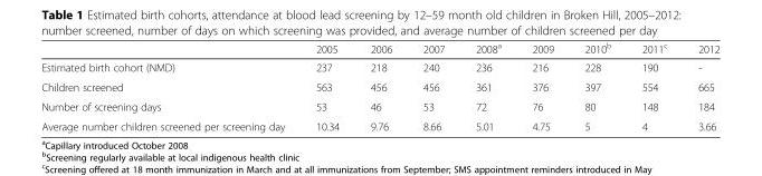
<table><thead><tr><td></td><td>2005</td><td>2006</td><td>2007</td><td>2008<sup>a</sup></td><td>2009</td><td>2010<sup>b</sup></td><td>2011<sup>c</sup></td><td>2012</td></tr></thead><tbody><tr><td>Estimated birth cohort (NMD)</td><td>237</td><td>218</td><td>240</td><td>236</td><td>216</td><td>228</td><td>190</td><td>-</td></tr><tr><td>Children screened</td><td>563</td><td>456</td><td>456</td><td>361</td><td>376</td><td>397</td><td>554</td><td>665</td></tr><tr><td>Number of screening days</td><td>53</td><td>46</td><td>53</td><td>72</td><td>76</td><td>80</td><td>148</td><td>184</td></tr><tr><td>Average number children screened per screening day</td><td>10.34</td><td>9.76</td><td>8.66</td><td>5.01</td><td>4.75</td><td>5</td><td>4</td><td>3.66</td></tr></tbody></table>